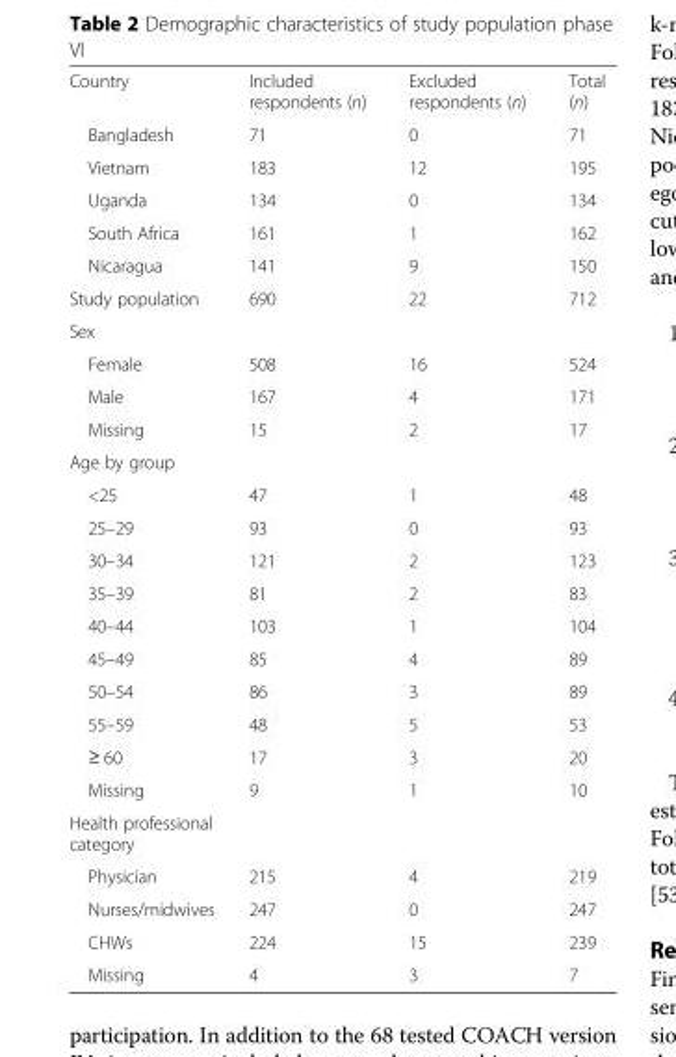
<table><tbody><tr><td>Country</td><td>Included respondents (n)</td><td>Excluded respondents (n)</td><td>Total (n)</td></tr><tr><td>Bangladesh</td><td>71</td><td>0</td><td>71</td></tr><tr><td>Vietnam</td><td>183</td><td>12</td><td>195</td></tr><tr><td>Uganda</td><td>134</td><td>0</td><td>134</td></tr><tr><td>South Africa</td><td>161</td><td>1</td><td>162</td></tr><tr><td>Nicaragua</td><td>141</td><td>9</td><td>150</td></tr><tr><td>Study population</td><td>690</td><td>22</td><td>712</td></tr><tr><td colspan="4">Sex</td></tr><tr><td>Female</td><td>508</td><td>16</td><td>524</td></tr><tr><td>Male</td><td>167</td><td>4</td><td>171</td></tr><tr><td>Missing</td><td>15</td><td>2</td><td>17</td></tr><tr><td colspan="4">Age by group</td></tr><tr><td>&lt;25</td><td>47</td><td>1</td><td>48</td></tr><tr><td>25–29</td><td>93</td><td>0</td><td>93</td></tr><tr><td>30–34</td><td>121</td><td>2</td><td>123</td></tr><tr><td>35–39</td><td>81</td><td>2</td><td>83</td></tr><tr><td>40–44</td><td>103</td><td>1</td><td>104</td></tr><tr><td>45–49</td><td>85</td><td>4</td><td>89</td></tr><tr><td>50–54</td><td>86</td><td>3</td><td>89</td></tr><tr><td>55–59</td><td>48</td><td>5</td><td>53</td></tr><tr><td>≥ 60</td><td>17</td><td>3</td><td>20</td></tr><tr><td>Missing</td><td>9</td><td>1</td><td>10</td></tr><tr><td colspan="4">Health professional category</td></tr><tr><td>Physician</td><td>215</td><td>4</td><td>219</td></tr><tr><td>Nurses/midwives</td><td>247</td><td>0</td><td>247</td></tr><tr><td>CHWs</td><td>224</td><td>15</td><td>239</td></tr><tr><td>Missing</td><td>4</td><td>3</td><td>7</td></tr></tbody></table>